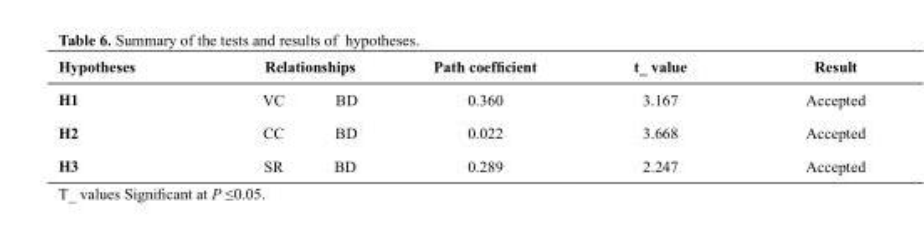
<table><thead><tr><td>Hypotheses</td><td>Relationships</td><td>Path coefficient</td><td>t_ value</td><td>Result</td></tr></thead><tbody><tr><td>H1</td><td>VC BD</td><td>0.360</td><td>3.167</td><td>Accepted</td></tr><tr><td>H2</td><td>CC BD</td><td>0.022</td><td>3.668</td><td>Accepted</td></tr><tr><td>H3</td><td>SR BD</td><td>0.289</td><td>2.247</td><td>Accepted</td></tr></tbody></table>